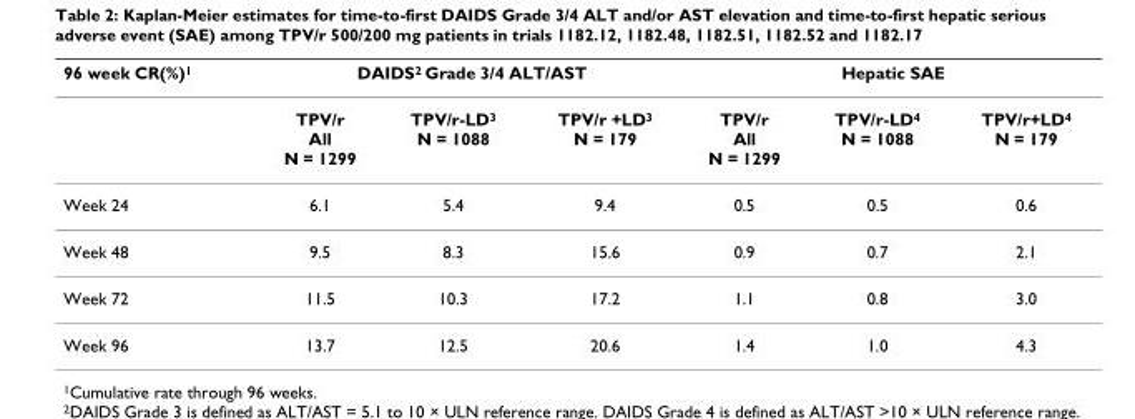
<table><thead><tr><td rowspan="2">96 week CR(%)<sup>1</sup></td><td colspan="3">DAIDS<sup>2</sup> Grade 3/4 ALT/AST</td><td colspan="3">Hepatic SAE</td></tr><tr><td>TPV/r All N = 1299</td><td>TPV/r-LD<sup>3</sup> N = 1088</td><td>TPV/r +LD<sup>3</sup> N = 179</td><td>TPV/r All N = 1299</td><td>TPV/r-LD<sup>4</sup> N = 1088</td><td>TPV/r+LD<sup>4</sup> N = 179</td></tr></thead><tbody><tr><td>Week 24</td><td>6.1</td><td>5.4</td><td>9.4</td><td>0.5</td><td>0.5</td><td>0.6</td></tr><tr><td>Week 48</td><td>9.5</td><td>8.3</td><td>15.6</td><td>0.9</td><td>0.7</td><td>2.1</td></tr><tr><td>Week 72</td><td>11.5</td><td>10.3</td><td>17.2</td><td>1.1</td><td>0.8</td><td>3.0</td></tr><tr><td>Week 96</td><td>13.7</td><td>12.5</td><td>20.6</td><td>1.4</td><td>1.0</td><td>4.3</td></tr></tbody></table>